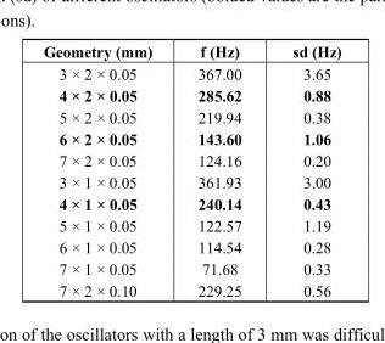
<table><thead><tr><td>Geometry (mm)</td><td>f (Hz)</td><td>sd (Hz)</td></tr></thead><tbody><tr><td>3 × 2 × 0.05</td><td>367.00</td><td>3.65</td></tr><tr><td>4 × 2 × 0.05</td><td>285.62</td><td>0.88</td></tr><tr><td>5 × 2 × 0.05</td><td>219.94</td><td>0.38</td></tr><tr><td>6 × 2 × 0.05</td><td>143.60</td><td>1.06</td></tr><tr><td>7 × 2 × 0.05</td><td>124.16</td><td>0.20</td></tr><tr><td>3 × 1 × 0.05</td><td>361.93</td><td>3.00</td></tr><tr><td>4 × 1 × 0.05</td><td>240.14</td><td>0.43</td></tr><tr><td>5 × 1 × 0.05</td><td>122.57</td><td>1.19</td></tr><tr><td>6 × 1 × 0.05</td><td>114.54</td><td>0.28</td></tr><tr><td>7 × 1 × 0.05</td><td>71.68</td><td>0.33</td></tr><tr><td>7 × 2 × 0.10</td><td>229.25</td><td>0.56</td></tr></tbody></table>